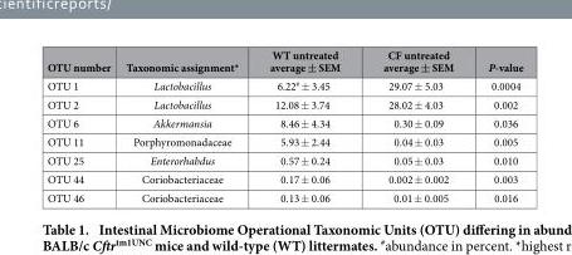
<table><thead><tr><td>OTU number</td><td>Taxonomic assignment*</td><td>WT untreated average ± SEM</td><td>CF untreated average ± SEM</td><td>P-value</td></tr></thead><tbody><tr><td>OTU 1</td><td>Lactobacillus</td><td>6.22<sup>#</sup> ± 3.45</td><td>29.07 ± 5.03</td><td>0.0004</td></tr><tr><td>OTU 2</td><td>Lactobacillus</td><td>12.08 ± 3.74</td><td>28.02 ± 4.03</td><td>0.002</td></tr><tr><td>OTU 6</td><td>Akkermansia</td><td>8.46 ± 4.34</td><td>0.30 ± 0.09</td><td>0.036</td></tr><tr><td>OTU 11</td><td>Porphyromonadaceae</td><td>5.93 ± 2.44</td><td>0.04 ± 0.03</td><td>0.005</td></tr><tr><td>OTU 25</td><td>Enterorhabdus</td><td>0.57 ± 0.24</td><td>0.05 ± 0.03</td><td>0.010</td></tr><tr><td>OTU 44</td><td>Coriobacteriaceae</td><td>0.17 ± 0.06</td><td>0.002 ± 0.002</td><td>0.003</td></tr><tr><td>OTU 46</td><td>Coriobacteriaceae</td><td>0.13 ± 0.06</td><td>0.01 ± 0.005</td><td>0.016</td></tr></tbody></table>